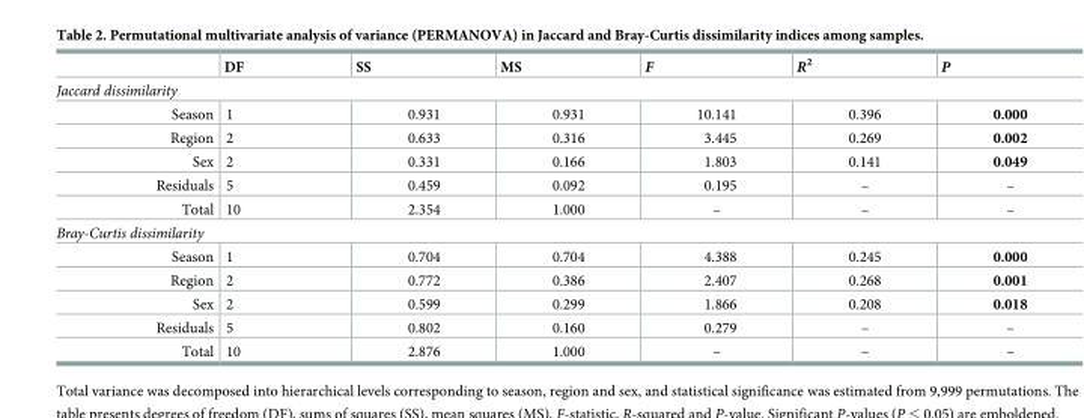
<table><thead><tr><td></td><td>DF</td><td>SS</td><td>MS</td><td>F</td><td>R<sup>2</sup></td><td>P</td></tr></thead><tbody><tr><td colspan="7">Jaccard dissimilarity</td></tr><tr><td>Season</td><td>1</td><td>0.931</td><td>0.931</td><td>10.141</td><td>0.396</td><td>0.000</td></tr><tr><td>Region</td><td>2</td><td>0.633</td><td>0.316</td><td>3.445</td><td>0.269</td><td>0.002</td></tr><tr><td>Sex</td><td>2</td><td>0.331</td><td>0.166</td><td>1.803</td><td>0.141</td><td>0.049</td></tr><tr><td>Residuals</td><td>5</td><td>0.459</td><td>0.092</td><td>0.195</td><td>–</td><td>–</td></tr><tr><td>Total</td><td>10</td><td>2.354</td><td>1.000</td><td>–</td><td>–</td><td>–</td></tr><tr><td colspan="7">Bray-Curtis dissimilarity</td></tr><tr><td>Season</td><td>1</td><td>0.704</td><td>0.704</td><td>4.388</td><td>0.245</td><td>0.000</td></tr><tr><td>Region</td><td>2</td><td>0.772</td><td>0.386</td><td>2.407</td><td>0.268</td><td>0.001</td></tr><tr><td>Sex</td><td>2</td><td>0.599</td><td>0.299</td><td>1.866</td><td>0.208</td><td>0.018</td></tr><tr><td>Residuals</td><td>5</td><td>0.802</td><td>0.160</td><td>0.279</td><td>–</td><td>–</td></tr><tr><td>Total</td><td>10</td><td>2.876</td><td>1.000</td><td>–</td><td>–</td><td>–</td></tr></tbody></table>